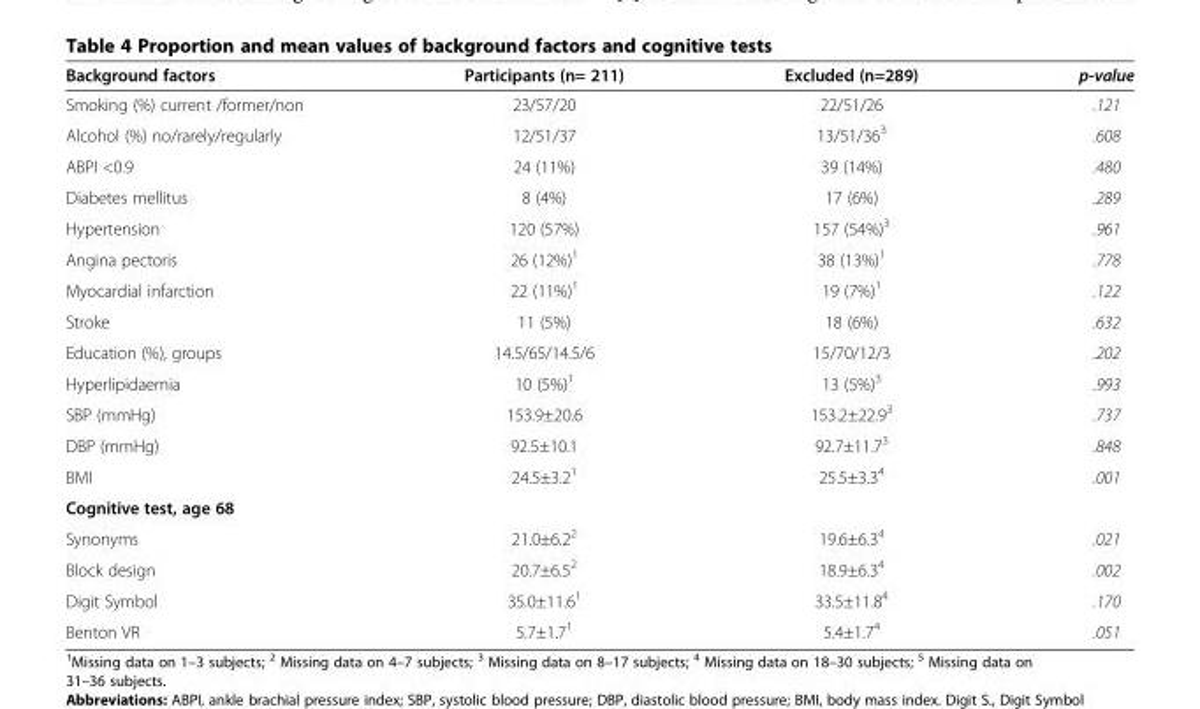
<table><thead><tr><td>Background factors</td><td>Participants (n= 211)</td><td>Excluded (n=289)</td><td>p-value</td></tr></thead><tbody><tr><td>Smoking (%) current /former/non</td><td>23/57/20</td><td>22/51/26</td><td>.121</td></tr><tr><td>Alcohol (%) no/rarely/regularly</td><td>12/51/37</td><td>13/51/36<sup>3</sup></td><td>.608</td></tr><tr><td>ABPI &lt;0.9</td><td>24 (11%)</td><td>39 (14%)</td><td>.480</td></tr><tr><td>Diabetes mellitus</td><td>8 (4%)</td><td>17 (6%)</td><td>.289</td></tr><tr><td>Hypertension</td><td>120 (57%)</td><td>157 (54%)<sup>3</sup></td><td>.961</td></tr><tr><td>Angina pectoris</td><td>26 (12%)<sup>1</sup></td><td>38 (13%)<sup>1</sup></td><td>.778</td></tr><tr><td>Myocardial infarction</td><td>22 (11%)<sup>1</sup></td><td>19 (7%)<sup>1</sup></td><td>.122</td></tr><tr><td>Stroke</td><td>11 (5%)</td><td>18 (6%)</td><td>.632</td></tr><tr><td>Education (%), groups</td><td>14.5/65/14.5/6</td><td>15/70/12/3</td><td>.202</td></tr><tr><td>Hyperlipidaemia</td><td>10 (5%)<sup>1</sup></td><td>13 (5%)<sup>3</sup></td><td>.993</td></tr><tr><td>SBP (mmHg)</td><td>153.9±20.6</td><td>153.2±22.9<sup>3</sup></td><td>.737</td></tr><tr><td>DBP (mmHg)</td><td>92.5±10.1</td><td>92.7±11.7<sup>3</sup></td><td>.848</td></tr><tr><td>BMI</td><td>24.5±3.2<sup>1</sup></td><td>25.5±3.3<sup>4</sup></td><td>.001</td></tr><tr><td colspan="4">Cognitive test, age 68</td></tr><tr><td>Synonyms</td><td>21.0±6.2<sup>2</sup></td><td>19.6±6.3<sup>4</sup></td><td>.021</td></tr><tr><td>Block design</td><td>20.7±6.5<sup>2</sup></td><td>18.9±6.3<sup>4</sup></td><td>.002</td></tr><tr><td>Digit Symbol</td><td>35.0±11.6<sup>1</sup></td><td>33.5±11.8<sup>4</sup></td><td>.170</td></tr><tr><td>Benton VR</td><td>5.7±1.7<sup>1</sup></td><td>5.4±1.7<sup>4</sup></td><td>.051</td></tr></tbody></table>